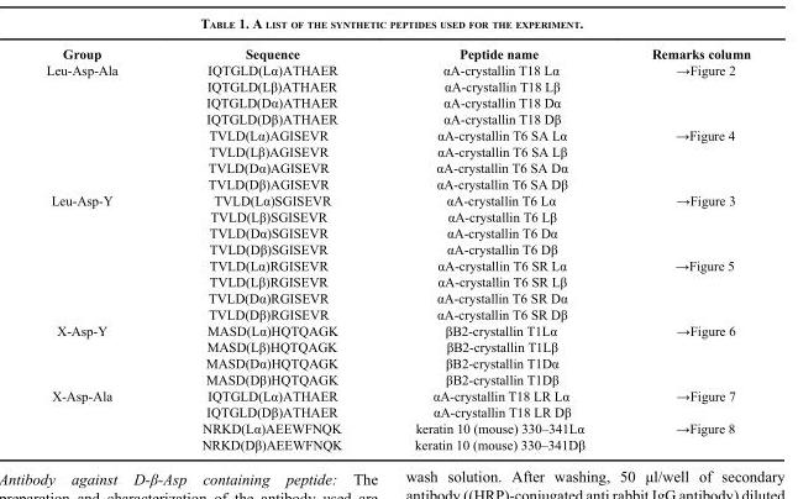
<table><thead><tr><td>Group</td><td>Sequence</td><td>Peptide name</td><td>Remarks column</td></tr></thead><tbody><tr><td rowspan="8">Leu-Asp-Ala</td><td>IQTGLD(Lα)ATHAER</td><td>αA-crystallin T18 Lα</td><td rowspan="4">→Figure 2</td></tr><tr><td>IQTGLD(Lβ)ATHAER</td><td>αA-crystallin T18 Lβ</td></tr><tr><td>IQTGLD(Dα)ATHAER</td><td>αA-crystallin T18 Dα</td></tr><tr><td>IQTGLD(Dβ)ATHAER</td><td>αA-crystallin T18 Dβ</td></tr><tr><td>TVLD(Lα)AGISEVR</td><td>αA-crystallin T6 SA Lα</td><td rowspan="4">→Figure 4</td></tr><tr><td>TVLD(Lβ)AGISEVR</td><td>αA-crystallin T6 SA Lβ</td></tr><tr><td>TVLD(Dα)AGISEVR</td><td>αA-crystallin T6 SA Dα</td></tr><tr><td>TVLD(Dβ)AGISEVR</td><td>αA-crystallin T6 SA Dβ</td></tr><tr><td rowspan="8">Leu-Asp-Y</td><td>TVLD(Lα)SGISEVR</td><td>αA-crystallin T6 Lα</td><td rowspan="4">→Figure 3</td></tr><tr><td>TVLD(Lβ)SGISEVR</td><td>αA-crystallin T6 Lβ</td></tr><tr><td>TVLD(Dα)SGISEVR</td><td>αA-crystallin T6 Dα</td></tr><tr><td>TVLD(Dβ)SGISEVR</td><td>αA-crystallin T6 Dβ</td></tr><tr><td>TVLD(Lα)RGISEVR</td><td>αA-crystallin T6 SR Lα</td><td rowspan="4">→Figure 5</td></tr><tr><td>TVLD(Lβ)RGISEVR</td><td>αA-crystallin T6 SR Lβ</td></tr><tr><td>TVLD(Dα)RGISEVR</td><td>αA-crystallin T6 SR Dα</td></tr><tr><td>TVLD(Dβ)RGISEVR</td><td>αA-crystallin T6 SR Dβ</td></tr><tr><td rowspan="4">X-Asp-Y</td><td>MASD(Lα)HQTQAGK</td><td>βB2-crystallin T1Lα</td><td rowspan="4">→Figure 6</td></tr><tr><td>MASD(Lβ)HQTQAGK</td><td>βB2-crystallin T1Lβ</td></tr><tr><td>MASD(Dα)HQTQAGK</td><td>βB2-crystallin T1Dα</td></tr><tr><td>MASD(Dβ)HQTQAGK</td><td>βB2-crystallin T1Dβ</td></tr><tr><td rowspan="4">X-Asp-Ala</td><td>IQTGLD(Lα)ATHAER</td><td>αA-crystallin T18 LR Lα</td><td rowspan="2">→Figure 7</td></tr><tr><td>IQTGLD(Dβ)ATHAER</td><td>αA-crystallin T18 LR Dβ</td></tr><tr><td>NRKD(Lα)AEEWFNQK</td><td>keratin 10 (mouse) 330–341Lα</td><td rowspan="2">→Figure 8</td></tr><tr><td>NRKD(Dβ)AEEWFNQK</td><td>keratin 10 (mouse) 330–341Dβ</td></tr></tbody></table>